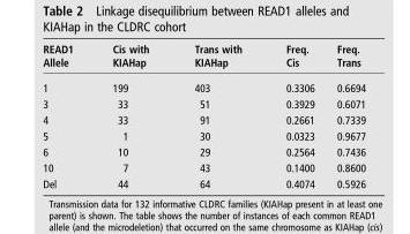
<table><thead><tr><td>READ1 Allele</td><td>Cis with KIAHap</td><td>Trans with KIAHap</td><td>Freq. Cis</td><td>Freq. Trans</td></tr></thead><tbody><tr><td>1</td><td>199</td><td>403</td><td>0.3306</td><td>0.6694</td></tr><tr><td>3</td><td>33</td><td>51</td><td>0.3929</td><td>0.6071</td></tr><tr><td>4</td><td>33</td><td>91</td><td>0.2661</td><td>0.7339</td></tr><tr><td>5</td><td>1</td><td>30</td><td>0.0323</td><td>0.9677</td></tr><tr><td>6</td><td>10</td><td>29</td><td>0.2564</td><td>0.7436</td></tr><tr><td>10</td><td>7</td><td>43</td><td>0.1400</td><td>0.8600</td></tr><tr><td>Del</td><td>44</td><td>64</td><td>0.4074</td><td>0.5926</td></tr></tbody></table>